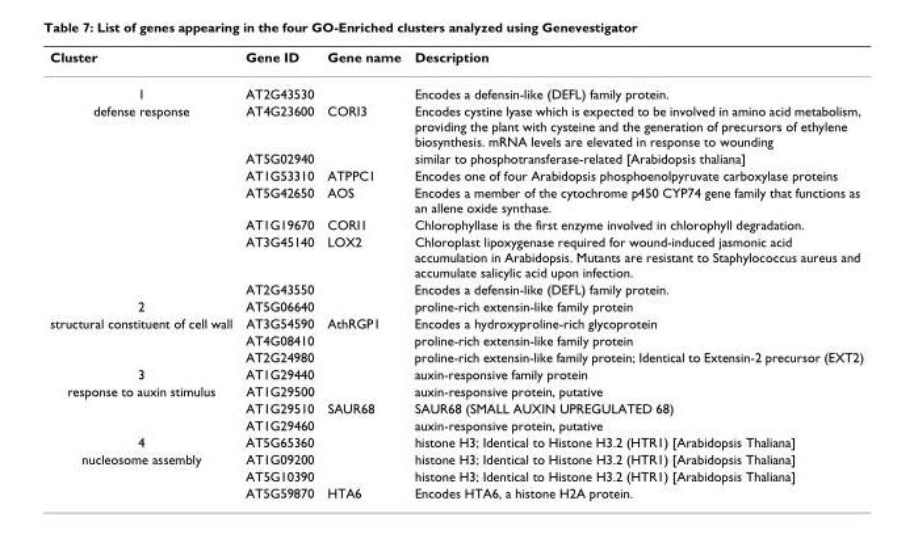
<table><thead><tr><td>Cluster</td><td>Gene ID</td><td>Gene name</td><td>Description</td></tr></thead><tbody><tr><td>1</td><td>AT2G43530</td><td></td><td>Encodes a defensin-like (DEFL) family protein.</td></tr><tr><td rowspan="7">defense response</td><td>AT4G23600</td><td>CORI3</td><td>Encodes cystine lyase which is expected to be involved in amino acid metabolism, providing the plant with cysteine and the generation of precursors of ethylene biosynthesis. mRNA levels are elevated in response to wounding</td></tr><tr><td>AT5G02940</td><td></td><td>similar to phosphotransferase-related [Arabidopsis thaliana]</td></tr><tr><td>AT1G53310</td><td>ATPPC1</td><td>Encodes one of four Arabidopsis phosphoenolpyruvate carboxylase proteins</td></tr><tr><td>AT5G42650</td><td>AOS</td><td>Encodes a member of the cytochrome p450 CYP74 gene family that functions as an allene oxide synthase.</td></tr><tr><td>AT1G19670</td><td>CORI1</td><td>Chlorophyllase is the first enzyme involved in chlorophyll degradation.</td></tr><tr><td>AT3G45140</td><td>LOX2</td><td>Chloroplast lipoxygenase required for wound-induced jasmonic acid accumulation in Arabidopsis. Mutants are resistant to Staphylococcus aureus and accumulate salicylic acid upon infection.</td></tr><tr><td>AT2G43550</td><td></td><td>Encodes a defensin-like (DEFL) family protein.</td></tr><tr><td>2</td><td>AT5G06640</td><td></td><td>proline-rich extensin-like family protein</td></tr><tr><td rowspan="3">structural constituent of cell wall</td><td>AT3G54590</td><td>AthRGP1</td><td>Encodes a hydroxyproline-rich glycoprotein</td></tr><tr><td>AT4G08410</td><td></td><td>proline-rich extensin-like family protein</td></tr><tr><td>AT2G24980</td><td></td><td>proline-rich extensin-like family protein; Identical to Extensin-2 precursor (EXT2)</td></tr><tr><td>3</td><td>AT1G29440</td><td></td><td>auxin-responsive family protein</td></tr><tr><td rowspan="3">response to auxin stimulus</td><td>AT1G29500</td><td></td><td>auxin-responsive protein, putative</td></tr><tr><td>AT1G29510</td><td>SAUR68</td><td>SAUR68 (SMALL AUXIN UPREGULATED 68)</td></tr><tr><td>AT1G29460</td><td></td><td>auxin-responsive protein, putative</td></tr><tr><td>4</td><td>AT5G65360</td><td></td><td>histone H3; Identical to Histone H3.2 (HTR1) [Arabidopsis Thaliana]</td></tr><tr><td rowspan="3">nucleosome assembly</td><td>AT1G09200</td><td></td><td>histone H3; Identical to Histone H3.2 (HTR1) [Arabidopsis Thaliana]</td></tr><tr><td>AT5G10390</td><td></td><td>histone H3; Identical to Histone H3.2 (HTR1) [Arabidopsis Thaliana]</td></tr><tr><td>AT5G59870</td><td>HTA6</td><td>Encodes HTA6, a histone H2A protein.</td></tr></tbody></table>